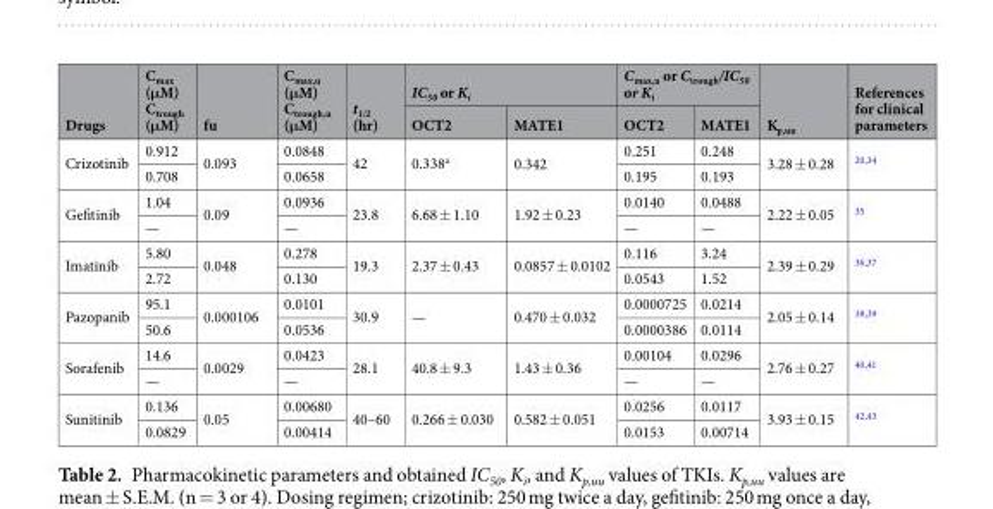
<table><thead><tr><td rowspan="2">Drugs</td><td rowspan="2">C<sub>max</sub> (μM) C<sub>trough</sub> (μM)</td><td rowspan="2">fu</td><td rowspan="2">C<sub>max,u</sub> (μM) C<sub>trough,u</sub> (μM)</td><td rowspan="2">t<sub>1/2</sub> (hr)</td><td colspan="2">IC<sub>50</sub> or K<sub>i</sub></td><td colspan="2">C<sub>max,u</sub> or C<sub>trough</sub>/IC<sub>50</sub> or K<sub>i</sub></td><td rowspan="2">K<sub>p,uu</sub></td><td rowspan="2">References for clinical parameters</td></tr><tr><td>OCT2</td><td>MATE1</td><td>OCT2</td><td>MATE1</td></tr></thead><tbody><tr><td rowspan="2">Crizotinib</td><td>0.912</td><td rowspan="2">0.093</td><td>0.0848</td><td rowspan="2">42</td><td rowspan="2">0.338<sup>a</sup></td><td rowspan="2">0.342</td><td>0.251</td><td>0.248</td><td rowspan="2">3.28 ± 0.28</td><td rowspan="2"><sup>20,34</sup></td></tr><tr><td>0.708</td><td>0.0658</td><td>0.195</td><td>0.193</td></tr><tr><td rowspan="2">Gefitinib</td><td>1.04</td><td rowspan="2">0.09</td><td>0.0936</td><td rowspan="2">23.8</td><td rowspan="2">6.68 ± 1.10</td><td rowspan="2">1.92 ± 0.23</td><td>0.0140</td><td>0.0488</td><td rowspan="2">2.22 ± 0.05</td><td rowspan="2"><sup>35</sup></td></tr><tr><td>—</td><td>—</td><td>—</td><td>—</td></tr><tr><td rowspan="2">Imatinib</td><td>5.80</td><td rowspan="2">0.048</td><td>0.278</td><td rowspan="2">19.3</td><td rowspan="2">2.37 ± 0.43</td><td rowspan="2">0.0857 ± 0.0102</td><td>0.116</td><td>3.24</td><td rowspan="2">2.39 ± 0.29</td><td rowspan="2"><sup>36,37</sup></td></tr><tr><td>2.72</td><td>0.130</td><td>0.0543</td><td>1.52</td></tr><tr><td rowspan="2">Pazopanib</td><td>95.1</td><td rowspan="2">0.000106</td><td>0.0101</td><td rowspan="2">30.9</td><td rowspan="2">—</td><td rowspan="2">0.470 ± 0.032</td><td>0.0000725</td><td>0.0214</td><td rowspan="2">2.05 ± 0.14</td><td rowspan="2"><sup>38,39</sup></td></tr><tr><td>50.6</td><td>0.0536</td><td>0.0000386</td><td>0.0114</td></tr><tr><td rowspan="2">Sorafenib</td><td>14.6</td><td rowspan="2">0.0029</td><td>0.0423</td><td rowspan="2">28.1</td><td rowspan="2">40.8 ± 9.3</td><td rowspan="2">1.43 ± 0.36</td><td>0.00104</td><td>0.0296</td><td rowspan="2">2.76 ± 0.27</td><td rowspan="2"><sup>40,41</sup></td></tr><tr><td>—</td><td>—</td><td>—</td><td>—</td></tr><tr><td rowspan="2">Sunitinib</td><td>0.136</td><td rowspan="2">0.05</td><td>0.00680</td><td rowspan="2">40–60</td><td rowspan="2">0.266 ± 0.030</td><td rowspan="2">0.582 ± 0.051</td><td>0.0256</td><td>0.0117</td><td rowspan="2">3.93 ± 0.15</td><td rowspan="2"><sup>42,43</sup></td></tr><tr><td>0.0829</td><td>0.00414</td><td>0.0153</td><td>0.00714</td></tr></tbody></table>